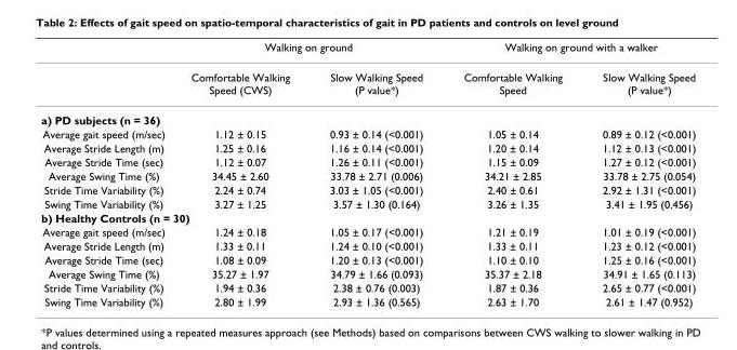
<table><thead><tr><td rowspan="2"></td><td colspan="2">Walking on ground</td><td colspan="2">Walking on ground with a walker</td></tr><tr><td>Comfortable Walking Speed (CWS)</td><td>Slow Walking Speed (P value*)</td><td>Comfortable Walking Speed</td><td>Slow Walking Speed (P value*)</td></tr></thead><tbody><tr><td colspan="5">a) PD subjects (n = 36)</td></tr><tr><td>Average gait speed (m/sec)</td><td>1.12 ± 0.15</td><td>0.93 ± 0.14 (&lt;0.001)</td><td>1.05 ± 0.14</td><td>0.89 ± 0.12 (&lt;0.001)</td></tr><tr><td>Average Stride Length (m)</td><td>1.25 ± 0.16</td><td>1.16 ± 0.14 (&lt;0.001)</td><td>1.20 ± 0.14</td><td>1.12 ± 0.13 (&lt;0.001)</td></tr><tr><td>Average Stride Time (sec)</td><td>1.12 ± 0.07</td><td>1.26 ± 0.11 (&lt;0.001)</td><td>1.15 ± 0.09</td><td>1.27 ± 0.12 (&lt;0.001)</td></tr><tr><td>Average Swing Time (%)</td><td>34.45 ± 2.60</td><td>33.78 ± 2.71 (0.006)</td><td>34.21 ± 2.85</td><td>33.78 ± 2.75 (0.054)</td></tr><tr><td>Stride Time Variability (%)</td><td>2.24 ± 0.74</td><td>3.03 ± 1.05 (&lt;0.001)</td><td>2.40 ± 0.61</td><td>2.92 ± 1.31 (&lt;0.001)</td></tr><tr><td>Swing Time Variability (%)</td><td>3.27 ± 1.25</td><td>3.57 ± 1.30 (0.164)</td><td>3.26 ± 1.35</td><td>3.41 ± 1.95 (0.456)</td></tr><tr><td colspan="5">b) Healthy Controls (n = 30)</td></tr><tr><td>Average gait speed (m/sec)</td><td>1.24 ± 0.18</td><td>1.05 ± 0.17 (&lt;0.001)</td><td>1.21 ± 0.19</td><td>1.01 ± 0.19 (&lt;0.001)</td></tr><tr><td>Average Stride Length (m)</td><td>1.33 ± 0.11</td><td>1.24 ± 0.10 (&lt;0.001)</td><td>1.33 ± 0.11</td><td>1.23 ± 0.12 (&lt;0.001)</td></tr><tr><td>Average Stride Time (sec)</td><td>1.08 ± 0.09</td><td>1.20 ± 0.13 (&lt;0.001)</td><td>1.10 ± 0.10</td><td>1.25 ± 0.16 (&lt;0.001)</td></tr><tr><td>Average Swing Time (%)</td><td>35.27 ± 1.97</td><td>34.79 ± 1.66 (0.093)</td><td>35.37 ± 2.18</td><td>34.91 ± 1.65 (0.113)</td></tr><tr><td>Stride Time Variability (%)</td><td>1.94 ± 0.36</td><td>2.38 ± 0.76 (0.003)</td><td>1.87 ± 0.36</td><td>2.65 ± 0.77 (&lt;0.001)</td></tr><tr><td>Swing Time Variability (%)</td><td>2.80 ± 1.99</td><td>2.93 ± 1.36 (0.565)</td><td>2.63 ± 1.70</td><td>2.61 ± 1.47 (0.952)</td></tr></tbody></table>